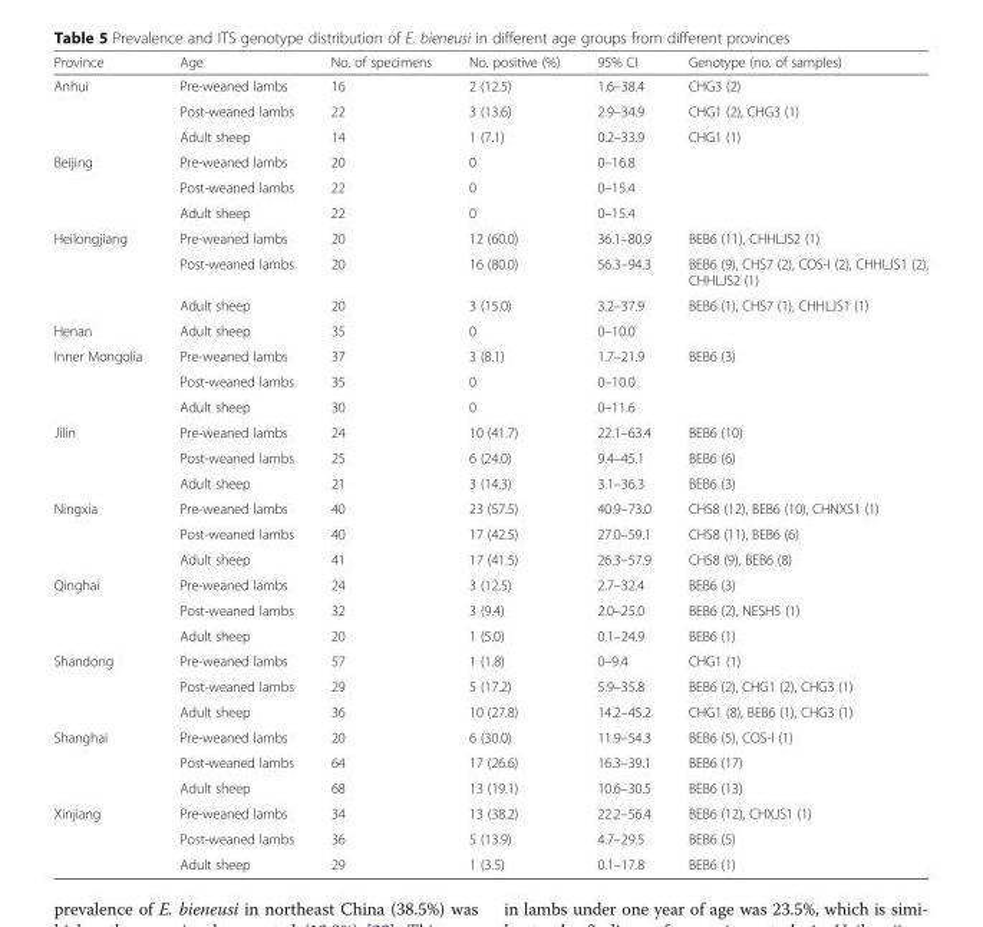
<table><thead><tr><td>Province</td><td>Age</td><td>No. of specimens</td><td>No. positive (%)</td><td>95% CI</td><td>Genotype (no. of samples)</td></tr></thead><tbody><tr><td rowspan="3">Anhui</td><td>Pre-weaned lambs</td><td>16</td><td>2 (12.5)</td><td>1.6–38.4</td><td>CHG3 (2)</td></tr><tr><td>Post-weaned lambs</td><td>22</td><td>3 (13.6)</td><td>2.9–34.9</td><td>CHG1 (2), CHG3 (1)</td></tr><tr><td>Adult sheep</td><td>14</td><td>1 (7.1)</td><td>0.2–33.9</td><td>CHG1 (1)</td></tr><tr><td rowspan="3">Beijing</td><td>Pre-weaned lambs</td><td>20</td><td>0</td><td>0–16.8</td><td></td></tr><tr><td>Post-weaned lambs</td><td>22</td><td>0</td><td>0–15.4</td><td></td></tr><tr><td>Adult sheep</td><td>22</td><td>0</td><td>0–15.4</td><td></td></tr><tr><td rowspan="3">Heilongjiang</td><td>Pre-weaned lambs</td><td>20</td><td>12 (60.0)</td><td>36.1–80.9</td><td>BEB6 (11), CHHLJS2 (1)</td></tr><tr><td>Post-weaned lambs</td><td>20</td><td>16 (80.0)</td><td>56.3–94.3</td><td>BEB6 (9), CHS7 (2), COS-I (2), CHHLJS1 (2), CHHLJS2 (1)</td></tr><tr><td>Adult sheep</td><td>20</td><td>3 (15.0)</td><td>3.2–37.9</td><td>BEB6 (1), CHS7 (1), CHHLJS1 (1)</td></tr><tr><td>Henan</td><td>Adult sheep</td><td>35</td><td>0</td><td>0–10.0</td><td></td></tr><tr><td rowspan="3">Inner Mongolia</td><td>Pre-weaned lambs</td><td>37</td><td>3 (8.1)</td><td>1.7–21.9</td><td>BEB6 (3)</td></tr><tr><td>Post-weaned lambs</td><td>35</td><td>0</td><td>0–10.0</td><td></td></tr><tr><td>Adult sheep</td><td>30</td><td>0</td><td>0–11.6</td><td></td></tr><tr><td rowspan="3">Jilin</td><td>Pre-weaned lambs</td><td>24</td><td>10 (41.7)</td><td>22.1–63.4</td><td>BEB6 (10)</td></tr><tr><td>Post-weaned lambs</td><td>25</td><td>6 (24.0)</td><td>9.4–45.1</td><td>BEB6 (6)</td></tr><tr><td>Adult sheep</td><td>21</td><td>3 (14.3)</td><td>3.1–36.3</td><td>BEB6 (3)</td></tr><tr><td rowspan="3">Ningxia</td><td>Pre-weaned lambs</td><td>40</td><td>23 (57.5)</td><td>40.9–73.0</td><td>CHS8 (12), BEB6 (10), CHNXS1 (1)</td></tr><tr><td>Post-weaned lambs</td><td>40</td><td>17 (42.5)</td><td>27.0–59.1</td><td>CHS8 (11), BEB6 (6)</td></tr><tr><td>Adult sheep</td><td>41</td><td>17 (41.5)</td><td>26.3–57.9</td><td>CHS8 (9), BEB6 (8)</td></tr><tr><td rowspan="3">Qinghai</td><td>Pre-weaned lambs</td><td>24</td><td>3 (12.5)</td><td>2.7–32.4</td><td>BEB6 (3)</td></tr><tr><td>Post-weaned lambs</td><td>32</td><td>3 (9.4)</td><td>2.0–25.0</td><td>BEB6 (2), NESH5 (1)</td></tr><tr><td>Adult sheep</td><td>20</td><td>1 (5.0)</td><td>0.1–24.9</td><td>BEB6 (1)</td></tr><tr><td rowspan="3">Shandong</td><td>Pre-weaned lambs</td><td>57</td><td>1 (1.8)</td><td>0–9.4</td><td>CHG1 (1)</td></tr><tr><td>Post-weaned lambs</td><td>29</td><td>5 (17.2)</td><td>5.9–35.8</td><td>BEB6 (2), CHG1 (2), CHG3 (1)</td></tr><tr><td>Adult sheep</td><td>36</td><td>10 (27.8)</td><td>14.2–45.2</td><td>CHG1 (8), BEB6 (1), CHG3 (1)</td></tr><tr><td rowspan="3">Shanghai</td><td>Pre-weaned lambs</td><td>20</td><td>6 (30.0)</td><td>11.9–54.3</td><td>BEB6 (5), COS-I (1)</td></tr><tr><td>Post-weaned lambs</td><td>64</td><td>17 (26.6)</td><td>16.3–39.1</td><td>BEB6 (17)</td></tr><tr><td>Adult sheep</td><td>68</td><td>13 (19.1)</td><td>10.6–30.5</td><td>BEB6 (13)</td></tr><tr><td rowspan="3">Xinjiang</td><td>Pre-weaned lambs</td><td>34</td><td>13 (38.2)</td><td>22.2–56.4</td><td>BEB6 (12), CHXJS1 (1)</td></tr><tr><td>Post-weaned lambs</td><td>36</td><td>5 (13.9)</td><td>4.7–29.5</td><td>BEB6 (5)</td></tr><tr><td>Adult sheep</td><td>29</td><td>1 (3.5)</td><td>0.1–17.8</td><td>BEB6 (1)</td></tr></tbody></table>